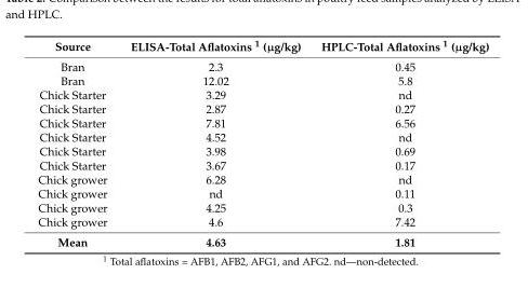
<table><thead><tr><td>Source</td><td>ELISA-Total Aflatoxins <sup>1</sup> (µg/kg)</td><td>HPLC-Total Aflatoxins <sup>1</sup> (µg/kg)</td></tr></thead><tbody><tr><td>Bran</td><td>2.3</td><td>0.45</td></tr><tr><td>Bran</td><td>12.02</td><td>5.8</td></tr><tr><td>Chick Starter</td><td>3.29</td><td>nd</td></tr><tr><td>Chick Starter</td><td>2.87</td><td>0.27</td></tr><tr><td>Chick Starter</td><td>7.81</td><td>6.56</td></tr><tr><td>Chick Starter</td><td>4.52</td><td>nd</td></tr><tr><td>Chick Starter</td><td>3.98</td><td>0.69</td></tr><tr><td>Chick Starter</td><td>3.67</td><td>0.17</td></tr><tr><td>Chick grower</td><td>6.28</td><td>nd</td></tr><tr><td>Chick grower</td><td>nd</td><td>0.11</td></tr><tr><td>Chick grower</td><td>4.25</td><td>0.3</td></tr><tr><td>Chick grower</td><td>4.6</td><td>7.42</td></tr><tr><td>Mean</td><td>4.63</td><td>1.81</td></tr></tbody></table>